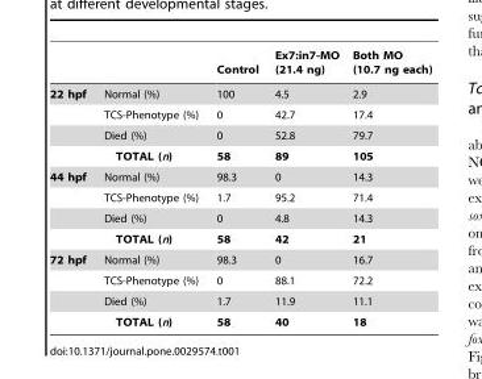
<table><thead><tr><td></td><td></td><td>Control</td><td>Ex7:in7-MO (21.4 ng)</td><td>Both MO (10.7 ng each)</td></tr></thead><tbody><tr><td rowspan="4">22 hpf</td><td>Normal (%)</td><td>100</td><td>4.5</td><td>2.9</td></tr><tr><td>TCS-Phenotype (%)</td><td>0</td><td>42.7</td><td>17.4</td></tr><tr><td>Died (%)</td><td>0</td><td>52.8</td><td>79.7</td></tr><tr><td>TOTAL (n)</td><td>58</td><td>89</td><td>105</td></tr><tr><td rowspan="4">44 hpf</td><td>Normal (%)</td><td>98.3</td><td>0</td><td>14.3</td></tr><tr><td>TCS-Phenotype (%)</td><td>1.7</td><td>95.2</td><td>71.4</td></tr><tr><td>Died (%)</td><td>0</td><td>4.8</td><td>14.3</td></tr><tr><td>TOTAL (n)</td><td>58</td><td>42</td><td>21</td></tr><tr><td rowspan="4">72 hpf</td><td>Normal (%)</td><td>98.3</td><td>0</td><td>16.7</td></tr><tr><td>TCS-Phenotype (%)</td><td>0</td><td>88.1</td><td>72.2</td></tr><tr><td>Died (%)</td><td>1.7</td><td>11.9</td><td>11.1</td></tr><tr><td>TOTAL (n)</td><td>58</td><td>40</td><td>18</td></tr></tbody></table>